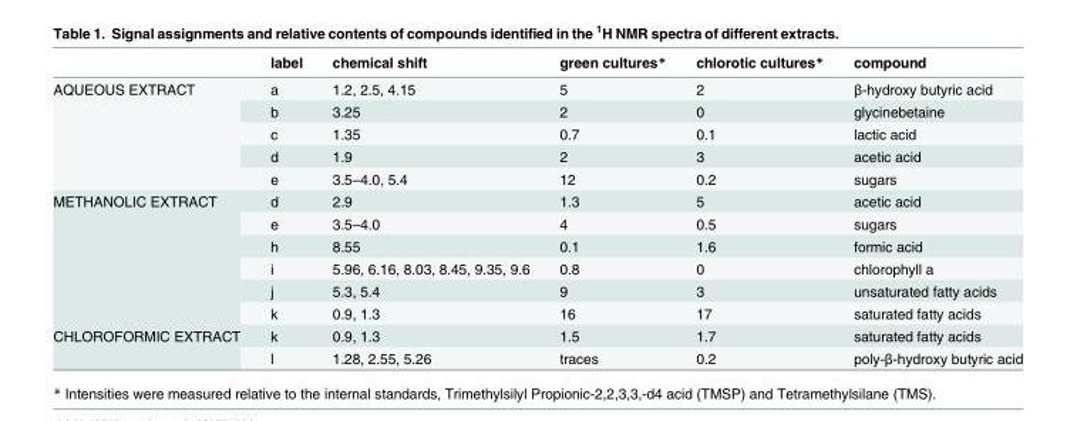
<table><thead><tr><td></td><td>label</td><td>chemical shift</td><td>green cultures*</td><td>chlorotic cultures*</td><td>compound</td></tr></thead><tbody><tr><td rowspan="5">AQUEOUS EXTRACT</td><td>a</td><td>1.2, 2.5, 4.15</td><td>5</td><td>2</td><td>β-hydroxy butyric acid</td></tr><tr><td>b</td><td>3.25</td><td>2</td><td>0</td><td>glycinebetaine</td></tr><tr><td>c</td><td>1.35</td><td>0.7</td><td>0.1</td><td>lactic acid</td></tr><tr><td>d</td><td>1.9</td><td>2</td><td>3</td><td>acetic acid</td></tr><tr><td>e</td><td>3.5–4.0, 5.4</td><td>12</td><td>0.2</td><td>sugars</td></tr><tr><td rowspan="6">METHANOLIC EXTRACT</td><td>d</td><td>2.9</td><td>1.3</td><td>5</td><td>acetic acid</td></tr><tr><td>e</td><td>3.5–4.0</td><td>4</td><td>0.5</td><td>sugars</td></tr><tr><td>h</td><td>8.55</td><td>0.1</td><td>1.6</td><td>formic acid</td></tr><tr><td>i</td><td>5.96, 6.16, 8.03, 8.45, 9.35, 9.6</td><td>0.8</td><td>0</td><td>chlorophyll a</td></tr><tr><td>j</td><td>5.3, 5.4</td><td>9</td><td>3</td><td>unsaturated fatty acids</td></tr><tr><td>k</td><td>0.9, 1.3</td><td>16</td><td>17</td><td>saturated fatty acids</td></tr><tr><td rowspan="2">CHLOROFORMIC EXTRACT</td><td>k</td><td>0.9, 1.3</td><td>1.5</td><td>1.7</td><td>saturated fatty acids</td></tr><tr><td>l</td><td>1.28, 2.55, 5.26</td><td>traces</td><td>0.2</td><td>poly-β-hydroxy butyric acid</td></tr></tbody></table>